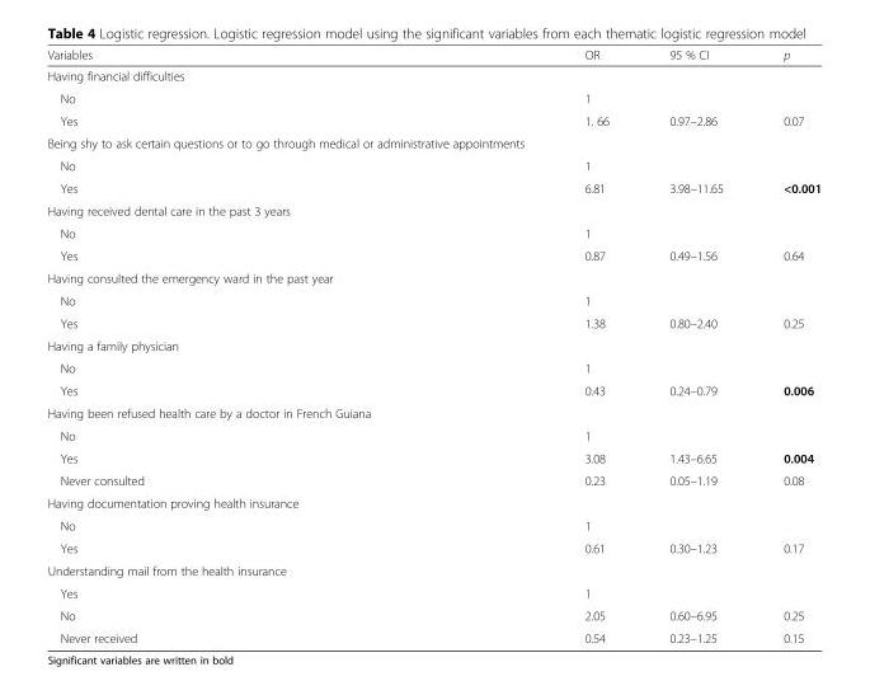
<table><thead><tr><td>Variables</td><td>OR</td><td>95 % CI</td><td>p</td></tr></thead><tbody><tr><td colspan="4">Having financial difficulties</td></tr><tr><td>No</td><td>1</td><td></td><td></td></tr><tr><td>Yes</td><td>1. 66</td><td>0.97–2.86</td><td>0.07</td></tr><tr><td colspan="4">Being shy to ask certain questions or to go through medical or administrative appointments</td></tr><tr><td>No</td><td>1</td><td></td><td></td></tr><tr><td>Yes</td><td>6.81</td><td>3.98–11.65</td><td>&lt;0.001</td></tr><tr><td colspan="4">Having received dental care in the past 3 years</td></tr><tr><td>No</td><td>1</td><td></td><td></td></tr><tr><td>Yes</td><td>0.87</td><td>0.49–1.56</td><td>0.64</td></tr><tr><td colspan="4">Having consulted the emergency ward in the past year</td></tr><tr><td>No</td><td>1</td><td></td><td></td></tr><tr><td>Yes</td><td>1.38</td><td>0.80–2.40</td><td>0.25</td></tr><tr><td colspan="4">Having a family physician</td></tr><tr><td>No</td><td>1</td><td></td><td></td></tr><tr><td>Yes</td><td>0.43</td><td>0.24–0.79</td><td>0.006</td></tr><tr><td colspan="4">Having been refused health care by a doctor in French Guiana</td></tr><tr><td>No</td><td>1</td><td></td><td></td></tr><tr><td>Yes</td><td>3.08</td><td>1.43–6.65</td><td>0.004</td></tr><tr><td>Never consulted</td><td>0.23</td><td>0.05–1.19</td><td>0.08</td></tr><tr><td colspan="4">Having documentation proving health insurance</td></tr><tr><td>No</td><td>1</td><td></td><td></td></tr><tr><td>Yes</td><td>0.61</td><td>0.30–1.23</td><td>0.17</td></tr><tr><td colspan="4">Understanding mail from the health insurance</td></tr><tr><td>Yes</td><td>1</td><td></td><td></td></tr><tr><td>No</td><td>2.05</td><td>0.60–6.95</td><td>0.25</td></tr><tr><td>Never received</td><td>0.54</td><td>0.23–1.25</td><td>0.15</td></tr></tbody></table>